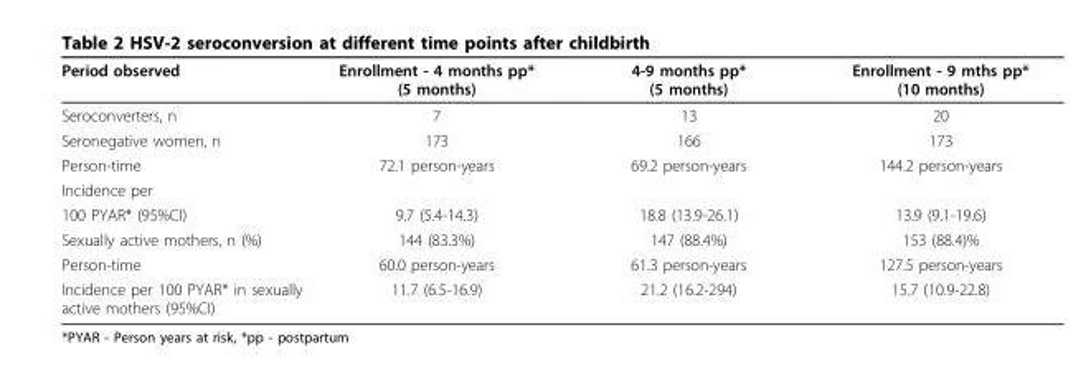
<table><thead><tr><td>Period observed</td><td>Enrollment - 4 months pp* (5 months)</td><td>4-9 months pp* (5 months)</td><td>Enrollment - 9 mths pp* (10 months)</td></tr></thead><tbody><tr><td>Seroconverters, n</td><td>7</td><td>13</td><td>20</td></tr><tr><td>Seronegative women, n</td><td>173</td><td>166</td><td>173</td></tr><tr><td>Person-time</td><td>72.1 person-years</td><td>69.2 person-years</td><td>144.2 person-years</td></tr><tr><td colspan="4">Incidence per</td></tr><tr><td>100 PYAR* (95%CI)</td><td>9.7 (5.4-14.3)</td><td>18.8 (13.9-26.1)</td><td>13.9 (9.1-19.6)</td></tr><tr><td>Sexually active mothers, n (%)</td><td>144 (83.3%)</td><td>147 (88.4%)</td><td>153 (88.4)%</td></tr><tr><td>Person-time</td><td>60.0 person-years</td><td>61.3 person-years</td><td>127.5 person-years</td></tr><tr><td>Incidence per 100 PYAR* in sexually active mothers (95%CI)</td><td>11.7 (6.5-16.9)</td><td>21.2 (16.2-294)</td><td>15.7 (10.9-22.8)</td></tr></tbody></table>